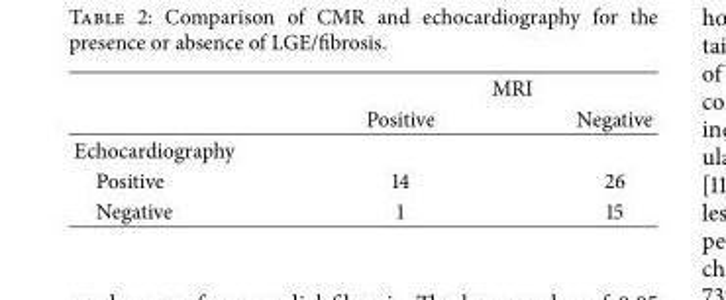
<table><thead><tr><td rowspan="2"></td><td colspan="2">MRI</td></tr><tr><td>Positive</td><td>Negative</td></tr></thead><tbody><tr><td colspan="3">Echocardiography</td></tr><tr><td>Positive</td><td>14</td><td>26</td></tr><tr><td>Negative</td><td>1</td><td>15</td></tr></tbody></table>